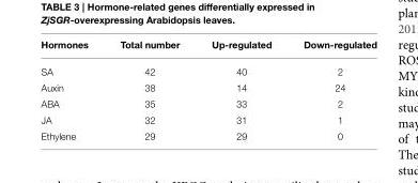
<table><thead><tr><td>Hormones</td><td>Total number</td><td>Up-regulated</td><td>Down-regulated</td></tr></thead><tbody><tr><td>SA</td><td>42</td><td>40</td><td>2</td></tr><tr><td>Auxin</td><td>38</td><td>14</td><td>24</td></tr><tr><td>ABA</td><td>35</td><td>33</td><td>2</td></tr><tr><td>JA</td><td>32</td><td>31</td><td>1</td></tr><tr><td>Ethylene</td><td>29</td><td>29</td><td>0</td></tr></tbody></table>